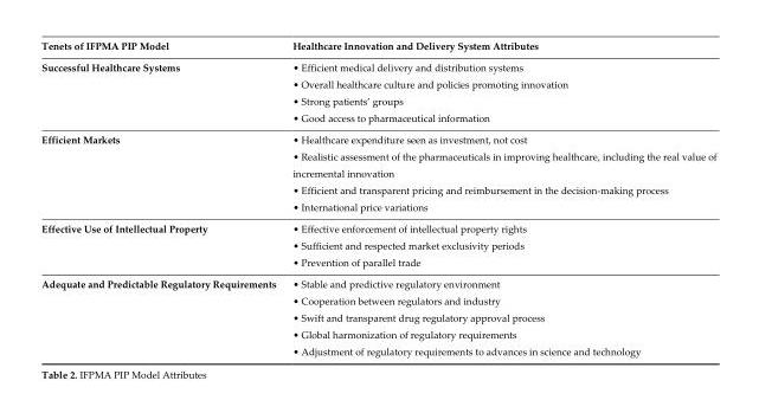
<table><thead><tr><td>Tenets of IFPMA PIP Model</td><td>Healthcare Innovation and Delivery System Attributes</td></tr></thead><tbody><tr><td>Successful Healthcare Systems</td><td>• Efficient medical delivery and distribution systems • Overall healthcare culture and policies promoting innovation • Strong patients’ groups • Good access to pharmaceutical information</td></tr><tr><td>Efficient Markets</td><td>• Healthcare expenditure seen as investment, not cost • Realistic assessment of the pharmaceuticals in improving healthcare, including the real value of incremental innovation • Efficient and transparent pricing and reimbursement in the decision-making process • International price variations</td></tr><tr><td>Effective Use of Intellectual Property</td><td>• Effective enforcement of intellectual property rights • Sufficient and respected market exclusivity periods • Prevention of parallel trade</td></tr><tr><td>Adequate and Predictable Regulatory Requirements</td><td>• Stable and predictive regulatory environment • Cooperation between regulators and industry • Swift and transparent drug regulatory approval process • Global harmonization of regulatory requirements • Adjustment of regulatory requirements to advances in science and technology</td></tr></tbody></table>